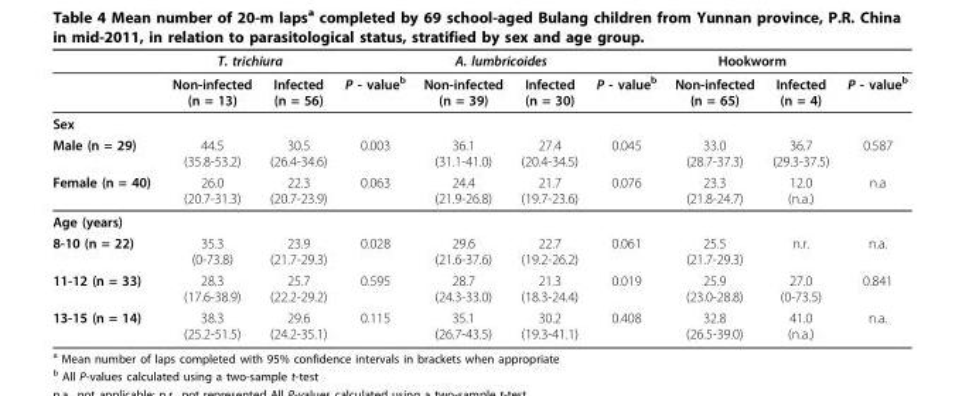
<table><thead><tr><td rowspan="2"></td><td colspan="2">T. trichiura</td><td rowspan="2">P - valueb</td><td colspan="2">A. lumbricoides</td><td rowspan="2">P - valueb</td><td colspan="2">Hookworm</td><td rowspan="2">P - valueb</td></tr><tr><td>Non-infected (n = 13)</td><td>Infected (n = 56)</td><td>Non-infected (n = 39)</td><td>Infected (n = 30)</td><td>Non-infected (n = 65)</td><td>Infected (n = 4)</td></tr></thead><tbody><tr><td colspan="10">Sex</td></tr><tr><td>Male (n = 29)</td><td>44.5 (35.8-53.2)</td><td>30.5 (26.4-34.6)</td><td>0.003</td><td>36.1 (31.1-41.0)</td><td>27.4 (20.4-34.5)</td><td>0.045</td><td>33.0 (28.7-37.3)</td><td>36.7 (29.3-37.5)</td><td>0.587</td></tr><tr><td>Female (n = 40)</td><td>26.0 (20.7-31.3)</td><td>22.3 (20.7-23.9)</td><td>0.063</td><td>24.4 (21.9-26.8)</td><td>21.7 (19.7-23.6)</td><td>0.076</td><td>23.3 (21.8-24.7)</td><td>12.0 (n.a.)</td><td>n.a</td></tr><tr><td colspan="10">Age (years)</td></tr><tr><td>8-10 (n = 22)</td><td>35.3 (0-73.8)</td><td>23.9 (21.7-29.3)</td><td>0.028</td><td>29.6 (21.6-37.6)</td><td>22.7 (19.2-26.2)</td><td>0.061</td><td>25.5 (21.7-29.3)</td><td>n.r.</td><td>n.a.</td></tr><tr><td>11-12 (n = 33)</td><td>28.3 (17.6-38.9)</td><td>25.7 (22.2-29.2)</td><td>0.595</td><td>28.7 (24.3-33.0)</td><td>21.3 (18.3-24.4)</td><td>0.019</td><td>25.9 (23.0-28.8)</td><td>27.0 (0-73.5)</td><td>0.841</td></tr><tr><td>13-15 (n = 14)</td><td>38.3 (25.2-51.5)</td><td>29.6 (24.2-35.1)</td><td>0.115</td><td>35.1 (26.7-43.5)</td><td>30.2 (19.3-41.1)</td><td>0.408</td><td>32.8 (26.5-39.0)</td><td>41.0 (n.a.)</td><td>n.a.</td></tr></tbody></table>